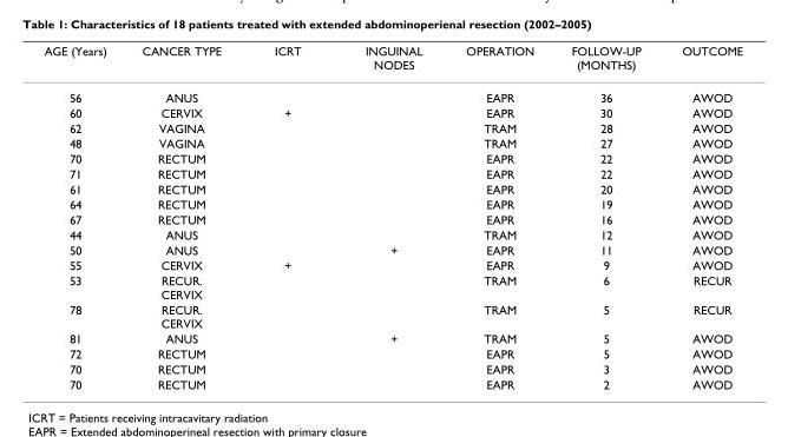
<table><thead><tr><td>AGE (Years)</td><td>CANCER TYPE</td><td>ICRT</td><td>INGUINAL NODES</td><td>OPERATION</td><td>FOLLOW-UP (MONTHS)</td><td>OUTCOME</td></tr></thead><tbody><tr><td>56</td><td>ANUS</td><td></td><td></td><td>EAPR</td><td>36</td><td>AWOD</td></tr><tr><td>60</td><td>CERVIX</td><td>+</td><td></td><td>EAPR</td><td>30</td><td>AWOD</td></tr><tr><td>62</td><td>VAGINA</td><td></td><td></td><td>TRAM</td><td>28</td><td>AWOD</td></tr><tr><td>48</td><td>VAGINA</td><td></td><td></td><td>TRAM</td><td>27</td><td>AWOD</td></tr><tr><td>70</td><td>RECTUM</td><td></td><td></td><td>EAPR</td><td>22</td><td>AWOD</td></tr><tr><td>71</td><td>RECTUM</td><td></td><td></td><td>EAPR</td><td>22</td><td>AWOD</td></tr><tr><td>61</td><td>RECTUM</td><td></td><td></td><td>EAPR</td><td>20</td><td>AWOD</td></tr><tr><td>64</td><td>RECTUM</td><td></td><td></td><td>EAPR</td><td>19</td><td>AWOD</td></tr><tr><td>67</td><td>RECTUM</td><td></td><td></td><td>EAPR</td><td>16</td><td>AWOD</td></tr><tr><td>44</td><td>ANUS</td><td></td><td></td><td>TRAM</td><td>12</td><td>AWOD</td></tr><tr><td>50</td><td>ANUS</td><td></td><td>+</td><td>EAPR</td><td>11</td><td>AWOD</td></tr><tr><td>55</td><td>CERVIX</td><td>+</td><td></td><td>EAPR</td><td>9</td><td>AWOD</td></tr><tr><td>53</td><td>RECUR. CERVIX</td><td></td><td></td><td>TRAM</td><td>6</td><td>RECUR</td></tr><tr><td>78</td><td>RECUR. CERVIX</td><td></td><td></td><td>TRAM</td><td>5</td><td>RECUR</td></tr><tr><td>81</td><td>ANUS</td><td></td><td>+</td><td>TRAM</td><td>5</td><td>AWOD</td></tr><tr><td>72</td><td>RECTUM</td><td></td><td></td><td>EAPR</td><td>5</td><td>AWOD</td></tr><tr><td>70</td><td>RECTUM</td><td></td><td></td><td>EAPR</td><td>3</td><td>AWOD</td></tr><tr><td>70</td><td>RECTUM</td><td></td><td></td><td>EAPR</td><td>2</td><td>AWOD</td></tr></tbody></table>